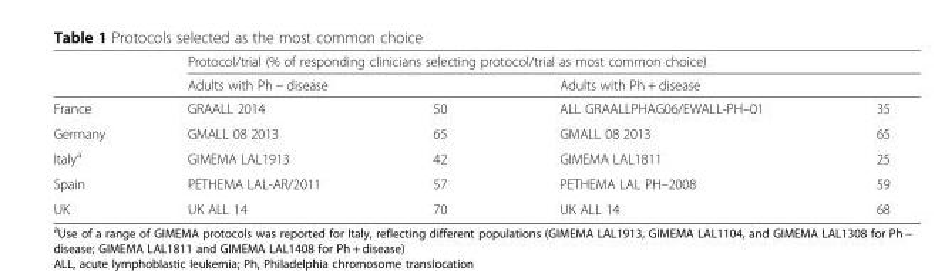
<table><thead><tr><td rowspan="3">France</td><td colspan="4">Protocol/trial (% of responding clinicians selecting protocol/trial as most common choice)</td></tr><tr><td colspan="2">Adults with Ph − disease</td><td colspan="2">Adults with Ph + disease</td></tr><tr><td>GRAALL 2014</td><td>50</td><td>ALL GRAALLPHAG06/EWALL-PH–01</td><td>35</td></tr></thead><tbody><tr><td>Germany</td><td>GMALL 08 2013</td><td>65</td><td>GMALL 08 2013</td><td>65</td></tr><tr><td>Italy<sup>a</sup></td><td>GIMEMA LAL1913</td><td>42</td><td>GIMEMA LAL1811</td><td>25</td></tr><tr><td>Spain</td><td>PETHEMA LAL-AR/2011</td><td>57</td><td>PETHEMA LAL PH–2008</td><td>59</td></tr><tr><td>UK</td><td>UK ALL 14</td><td>70</td><td>UK ALL 14</td><td>68</td></tr></tbody></table>